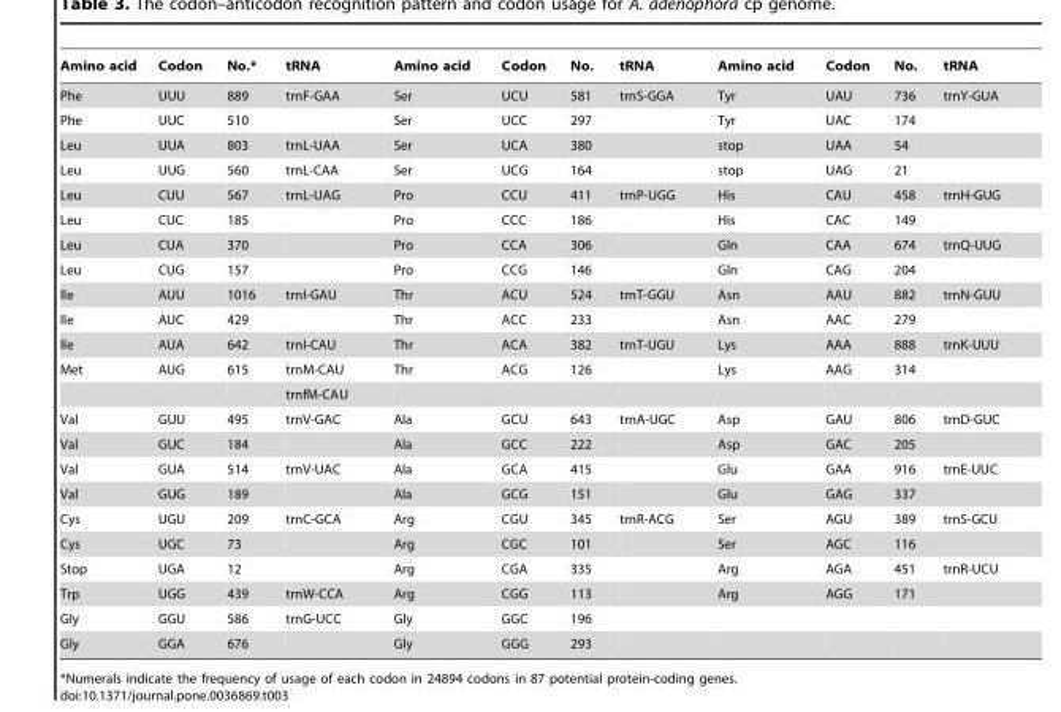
<table><thead><tr><td>Amino acid</td><td>Codon</td><td>No.*</td><td>tRNA</td><td>Amino acid</td><td>Codon</td><td>No.</td><td>tRNA</td><td>Amino acid</td><td>Codon</td><td>No.</td><td>tRNA</td></tr></thead><tbody><tr><td>Phe</td><td>UUU</td><td>889</td><td>trnF-GAA</td><td>Ser</td><td>UCU</td><td>581</td><td>trnS-GGA</td><td>Tyr</td><td>UAU</td><td>736</td><td>trnY-GUA</td></tr><tr><td>Phe</td><td>UUC</td><td>510</td><td></td><td>Ser</td><td>UCC</td><td>297</td><td></td><td>Tyr</td><td>UAC</td><td>174</td><td></td></tr><tr><td>Leu</td><td>UUA</td><td>803</td><td>trnL-UAA</td><td>Ser</td><td>UCA</td><td>380</td><td></td><td>stop</td><td>UAA</td><td>54</td><td></td></tr><tr><td>Leu</td><td>UUG</td><td>560</td><td>trnL-CAA</td><td>Ser</td><td>UCG</td><td>164</td><td></td><td>stop</td><td>UAG</td><td>21</td><td></td></tr><tr><td>Leu</td><td>CUU</td><td>567</td><td>trnL-UAG</td><td>Pro</td><td>CCU</td><td>411</td><td>trnP-UGG</td><td>His</td><td>CAU</td><td>458</td><td>trnH-GUG</td></tr><tr><td>Leu</td><td>CUC</td><td>185</td><td></td><td>Pro</td><td>CCC</td><td>186</td><td></td><td>His</td><td>CAC</td><td>149</td><td></td></tr><tr><td>Leu</td><td>CUA</td><td>370</td><td></td><td>Pro</td><td>CCA</td><td>306</td><td></td><td>Gln</td><td>CAA</td><td>674</td><td>trnQ-UUG</td></tr><tr><td>Leu</td><td>CUG</td><td>157</td><td></td><td>Pro</td><td>CCG</td><td>146</td><td></td><td>Gln</td><td>CAG</td><td>204</td><td></td></tr><tr><td>Ile</td><td>AUU</td><td>1016</td><td>trnI-GAU</td><td>Thr</td><td>ACU</td><td>524</td><td>trnT-GGU</td><td>Asn</td><td>AAU</td><td>882</td><td>trnN-GUU</td></tr><tr><td>Ile</td><td>AUC</td><td>429</td><td></td><td>Thr</td><td>ACC</td><td>233</td><td></td><td>Asn</td><td>AAC</td><td>279</td><td></td></tr><tr><td>Ile</td><td>AUA</td><td>642</td><td>trnI-CAU</td><td>Thr</td><td>ACA</td><td>382</td><td>trnT-UGU</td><td>Lys</td><td>AAA</td><td>888</td><td>trnK-UUU</td></tr><tr><td rowspan="2">Met</td><td>AUG</td><td>615</td><td>trnM-CAU</td><td>Thr</td><td>ACG</td><td>126</td><td></td><td>Lys</td><td>AAG</td><td>314</td><td></td></tr><tr><td></td><td></td><td>trnfM-CAU</td><td></td><td></td><td></td><td></td><td></td><td></td><td></td><td></td></tr><tr><td>Val</td><td>GUU</td><td>495</td><td>trnV-GAC</td><td>Ala</td><td>GCU</td><td>643</td><td>trnA-UGC</td><td>Asp</td><td>GAU</td><td>806</td><td>trnD-GUC</td></tr><tr><td>Val</td><td>GUC</td><td>184</td><td></td><td>Ala</td><td>GCC</td><td>222</td><td></td><td>Asp</td><td>GAC</td><td>205</td><td></td></tr><tr><td>Val</td><td>GUA</td><td>514</td><td>trnV-UAC</td><td>Ala</td><td>GCA</td><td>415</td><td></td><td>Glu</td><td>GAA</td><td>916</td><td>trnE-UUC</td></tr><tr><td>Val</td><td>GUG</td><td>189</td><td></td><td>Ala</td><td>GCG</td><td>151</td><td></td><td>Glu</td><td>GAG</td><td>337</td><td></td></tr><tr><td>Cys</td><td>UGU</td><td>209</td><td>trnC-GCA</td><td>Arg</td><td>CGU</td><td>345</td><td>trnR-ACG</td><td>Ser</td><td>AGU</td><td>389</td><td>trnS-GCU</td></tr><tr><td>Cys</td><td>UGC</td><td>73</td><td></td><td>Arg</td><td>CGC</td><td>101</td><td></td><td>Ser</td><td>AGC</td><td>116</td><td></td></tr><tr><td>Stop</td><td>UGA</td><td>12</td><td></td><td>Arg</td><td>CGA</td><td>335</td><td></td><td>Arg</td><td>AGA</td><td>451</td><td>trnR-UCU</td></tr><tr><td>Trp</td><td>UGG</td><td>439</td><td>trnW-CCA</td><td>Arg</td><td>CGG</td><td>113</td><td></td><td>Arg</td><td>AGG</td><td>171</td><td></td></tr><tr><td>Gly</td><td>GGU</td><td>586</td><td>trnG-UCC</td><td>Gly</td><td>GGC</td><td>196</td><td></td><td></td><td></td><td></td><td></td></tr><tr><td>Gly</td><td>GGA</td><td>676</td><td></td><td>Gly</td><td>GGG</td><td>293</td><td></td><td></td><td></td><td></td><td></td></tr></tbody></table>